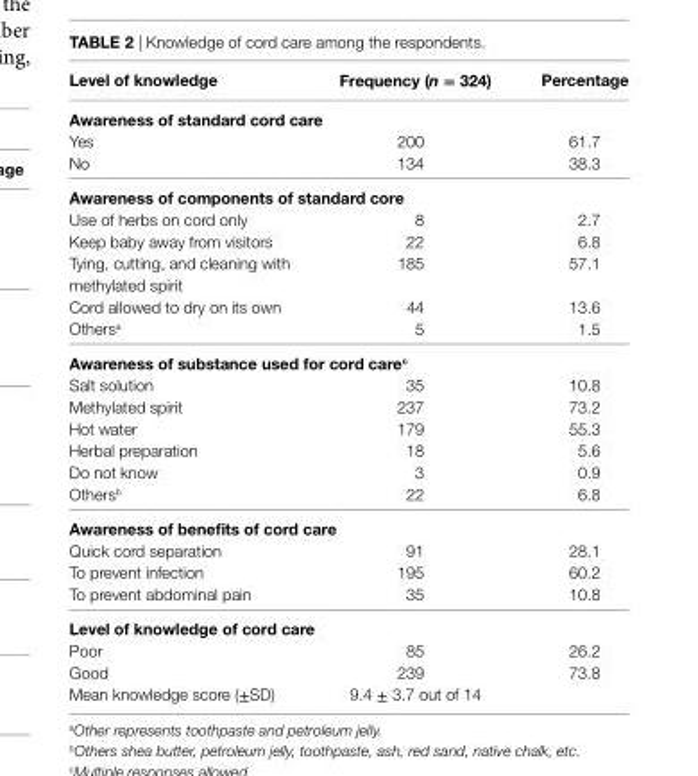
<table><thead><tr><td>level of knowledge</td><td>Frequency (n = 324)</td><td>Percentage</td></tr></thead><tbody><tr><td colspan="3">awareness of standard cord care</td></tr><tr><td>Yes</td><td>200</td><td>61.7</td></tr><tr><td>No</td><td>134</td><td>38.3</td></tr><tr><td colspan="3">awareness of components of standard core</td></tr><tr><td>Use of herbs on cord only</td><td>8</td><td>2.7</td></tr><tr><td>Keep baby away from visitors</td><td>22</td><td>6.8</td></tr><tr><td>Tying, cutting, and cleaning with methylated spirit</td><td>185</td><td>57.1</td></tr><tr><td>Cord allowed to dry on its own</td><td>44</td><td>13.6</td></tr><tr><td>Others<sup>a</sup></td><td>5</td><td>1.5</td></tr><tr><td colspan="3">awareness of substance used for cord care<sup>c</sup></td></tr><tr><td>Salt solution</td><td>35</td><td>10.8</td></tr><tr><td>Methylated spirit</td><td>237</td><td>73.2</td></tr><tr><td>Hot water</td><td>179</td><td>55.3</td></tr><tr><td>Herbal preparation</td><td>18</td><td>5.6</td></tr><tr><td>Do not know</td><td>3</td><td>0.9</td></tr><tr><td>Others<sup>b</sup></td><td>22</td><td>6.8</td></tr><tr><td colspan="3">awareness of benefits of cord care</td></tr><tr><td>Quick cord separation</td><td>91</td><td>28.1</td></tr><tr><td>To prevent infection</td><td>195</td><td>60.2</td></tr><tr><td>To prevent abdominal pain</td><td>35</td><td>10.8</td></tr><tr><td colspan="3">level of knowledge of cord care</td></tr><tr><td>Poor</td><td>85</td><td>26.2</td></tr><tr><td>Good</td><td>239</td><td>73.8</td></tr><tr><td>Mean knowledge score (±SD)</td><td>9.4 ± 3.7 out of 14</td><td></td></tr></tbody></table>